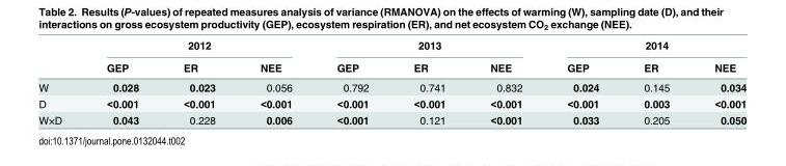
<table><thead><tr><td rowspan="2"></td><td colspan="3">2012</td><td colspan="3">2013</td><td colspan="3">2014</td></tr><tr><td>GEP</td><td>ER</td><td>NEE</td><td>GEP</td><td>ER</td><td>NEE</td><td>GEP</td><td>ER</td><td>NEE</td></tr></thead><tbody><tr><td>W</td><td>0.028</td><td>0.023</td><td>0.056</td><td>0.792</td><td>0.741</td><td>0.832</td><td>0.024</td><td>0.145</td><td>0.034</td></tr><tr><td>D</td><td>&lt;0.001</td><td>&lt;0.001</td><td>&lt;0.001</td><td>&lt;0.001</td><td>&lt;0.001</td><td>&lt;0.001</td><td>&lt;0.001</td><td>0.003</td><td>&lt;0.001</td></tr><tr><td>W×D</td><td>0.043</td><td>0.228</td><td>0.006</td><td>&lt;0.001</td><td>0.121</td><td>&lt;0.001</td><td>0.033</td><td>0.205</td><td>0.050</td></tr></tbody></table>